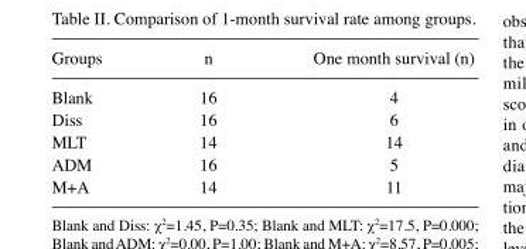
<table><thead><tr><td>Groups</td><td>n</td><td>One month survival (n)</td></tr></thead><tbody><tr><td>Blank</td><td>16</td><td>4</td></tr><tr><td>Diss</td><td>16</td><td>6</td></tr><tr><td>MLT</td><td>14</td><td>14</td></tr><tr><td>ADM</td><td>16</td><td>5</td></tr><tr><td>M+A</td><td>14</td><td>11</td></tr></tbody></table>